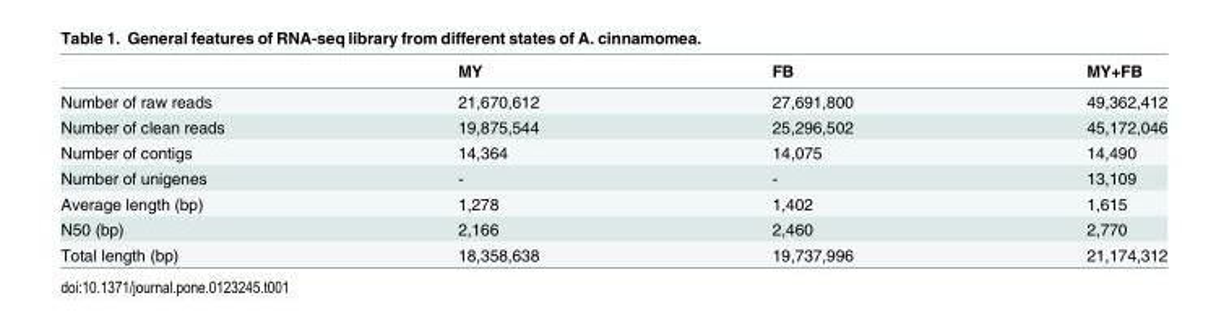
<table><thead><tr><td></td><td>MY</td><td>FB</td><td>MY+FB</td></tr></thead><tbody><tr><td>Number of raw reads</td><td>21,670,612</td><td>27,691,800</td><td>49,362,412</td></tr><tr><td>Number of clean reads</td><td>19,875,544</td><td>25,296,502</td><td>45,172,046</td></tr><tr><td>Number of contigs</td><td>14,364</td><td>14,075</td><td>14,490</td></tr><tr><td>Number of unigenes</td><td>-</td><td>-</td><td>13,109</td></tr><tr><td>Average length (bp)</td><td>1,278</td><td>1,402</td><td>1,615</td></tr><tr><td>N50 (bp)</td><td>2,166</td><td>2,460</td><td>2,770</td></tr><tr><td>Total length (bp)</td><td>18,358,638</td><td>19,737,996</td><td>21,174,312</td></tr></tbody></table>